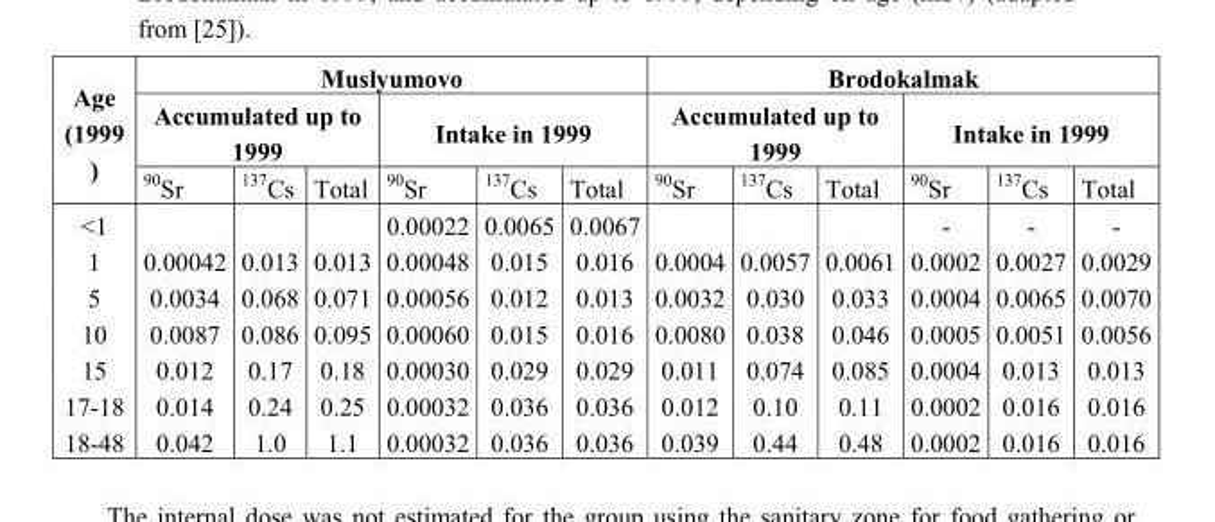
<table><thead><tr><td rowspan="3">Age (1999 )</td><td colspan="6">Muslyumovo</td><td colspan="6">Brodokalmak</td></tr><tr><td colspan="3">Accumulated up to 1999</td><td colspan="3">Intake in 1999</td><td colspan="3">Accumulated up to 1999</td><td colspan="3">Intake in 1999</td></tr><tr><td><sup>90</sup>Sr</td><td><sup>137</sup>Cs</td><td>Total</td><td><sup>90</sup>Sr</td><td><sup>137</sup>Cs</td><td>Total</td><td><sup>90</sup>Sr</td><td><sup>137</sup>Cs</td><td>Total</td><td><sup>90</sup>Sr</td><td><sup>137</sup>Cs</td><td>Total</td></tr></thead><tbody><tr><td>&lt;1</td><td></td><td></td><td></td><td>0.00022</td><td>0.0065</td><td>0.0067</td><td></td><td></td><td></td><td>-</td><td>-</td><td>-</td></tr><tr><td>1</td><td>0.00042</td><td>0.013</td><td>0.013</td><td>0.00048</td><td>0.015</td><td>0.016</td><td>0.0004</td><td>0.0057</td><td>0.0061</td><td>0.0002</td><td>0.0027</td><td>0.0029</td></tr><tr><td>5</td><td>0.0034</td><td>0.068</td><td>0.071</td><td>0.00056</td><td>0.012</td><td>0.013</td><td>0.0032</td><td>0.030</td><td>0.033</td><td>0.0004</td><td>0.0065</td><td>0.0070</td></tr><tr><td>10</td><td>0.0087</td><td>0.086</td><td>0.095</td><td>0.00060</td><td>0.015</td><td>0.016</td><td>0.0080</td><td>0.038</td><td>0.046</td><td>0.0005</td><td>0.0051</td><td>0.0056</td></tr><tr><td>15</td><td>0.012</td><td>0.17</td><td>0.18</td><td>0.00030</td><td>0.029</td><td>0.029</td><td>0.011</td><td>0.074</td><td>0.085</td><td>0.0004</td><td>0.013</td><td>0.013</td></tr><tr><td>17-18</td><td>0.014</td><td>0.24</td><td>0.25</td><td>0.00032</td><td>0.036</td><td>0.036</td><td>0.012</td><td>0.10</td><td>0.11</td><td>0.0002</td><td>0.016</td><td>0.016</td></tr><tr><td>18-48</td><td>0.042</td><td>1.0</td><td>1.1</td><td>0.00032</td><td>0.036</td><td>0.036</td><td>0.039</td><td>0.44</td><td>0.48</td><td>0.0002</td><td>0.016</td><td>0.016</td></tr></tbody></table>